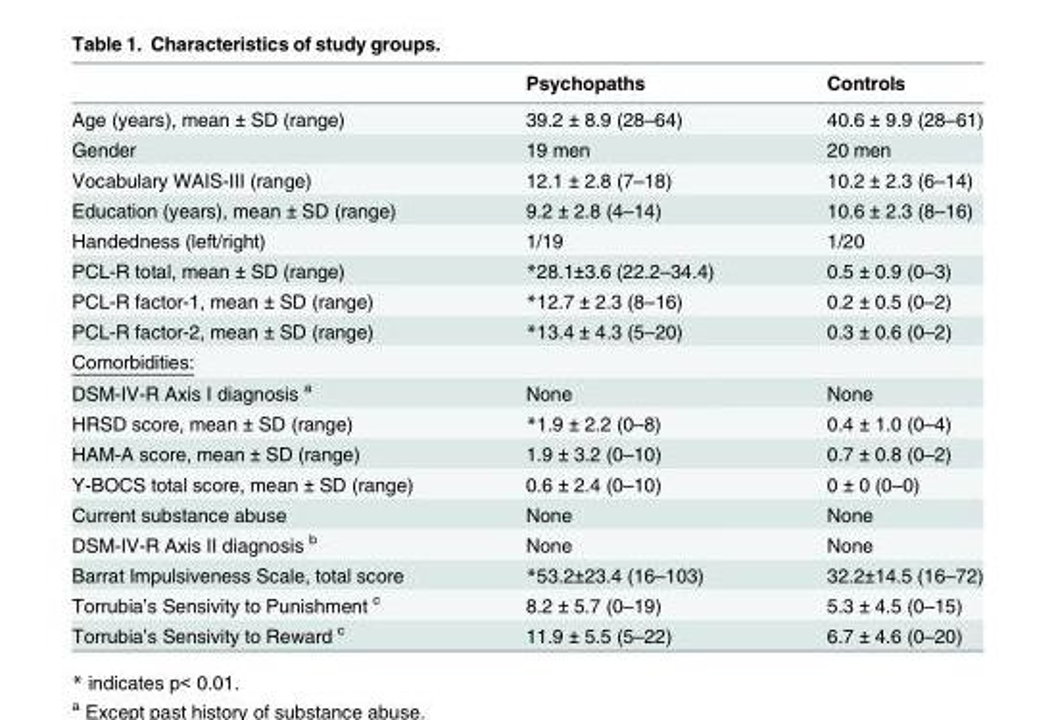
<table><thead><tr><td></td><td>Psychopaths</td><td>Controls</td></tr></thead><tbody><tr><td>Age (years), mean ± SD (range)</td><td>39.2 ± 8.9 (28–64)</td><td>40.6 ± 9.9 (28–61)</td></tr><tr><td>Gender</td><td>19 men</td><td>20 men</td></tr><tr><td>Vocabulary WAIS-III (range)</td><td>12.1 ± 2.8 (7–18)</td><td>10.2 ± 2.3 (6–14)</td></tr><tr><td>Education (years), mean ± SD (range)</td><td>9.2 ± 2.8 (4–14)</td><td>10.6 ± 2.3 (8–16)</td></tr><tr><td>Handedness (left/right)</td><td>1/19</td><td>1/20</td></tr><tr><td>PCL-R total, mean ± SD (range)</td><td>*28.1±3.6 (22.2–34.4)</td><td>0.5 ± 0.9 (0–3)</td></tr><tr><td>PCL-R factor-1, mean ± SD (range)</td><td>*12.7 ± 2.3 (8–16)</td><td>0.2 ± 0.5 (0–2)</td></tr><tr><td>PCL-R factor-2, mean ± SD (range)</td><td>*13.4 ± 4.3 (5–20)</td><td>0.3 ± 0.6 (0–2)</td></tr><tr><td colspan="3">Comorbidities:</td></tr><tr><td>DSM-IV-R Axis I diagnosis <sup>a</sup></td><td>None</td><td>None</td></tr><tr><td>HRSD score, mean ± SD (range)</td><td>*1.9 ± 2.2 (0–8)</td><td>0.4 ± 1.0 (0–4)</td></tr><tr><td>HAM-A score, mean ± SD (range)</td><td>1.9 ± 3.2 (0–10)</td><td>0.7 ± 0.8 (0–2)</td></tr><tr><td>Y-BOCS total score, mean ± SD (range)</td><td>0.6 ± 2.4 (0–10)</td><td>0 ± 0 (0–0)</td></tr><tr><td>Current substance abuse</td><td>None</td><td>None</td></tr><tr><td>DSM-IV-R Axis II diagnosis <sup>b</sup></td><td>None</td><td>None</td></tr><tr><td>Barrat Impulsiveness Scale, total score</td><td>*53.2±23.4 (16–103)</td><td>32.2±14.5 (16–72)</td></tr><tr><td>Torrubia’s Sensivity to Punishment <sup>c</sup></td><td>8.2 ± 5.7 (0–19)</td><td>5.3 ± 4.5 (0–15)</td></tr><tr><td>Torrubia’s Sensivity to Reward <sup>c</sup></td><td>11.9 ± 5.5 (5–22)</td><td>6.7 ± 4.6 (0–20)</td></tr></tbody></table>